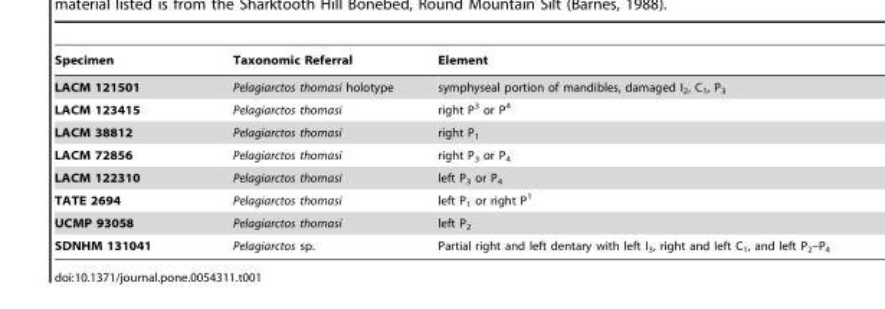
<table><thead><tr><td>Specimen</td><td>Taxonomic Referral</td><td>Element</td></tr></thead><tbody><tr><td>LACM 121501</td><td>Pelagiarctos thomasi holotype</td><td>symphyseal portion of mandibles, damaged I<sub>2</sub>, C<sub>1</sub>, P<sub>3</sub></td></tr><tr><td>LACM 123415</td><td>Pelagiarctos thomasi</td><td>right P<sup>3</sup> or P<sup>4</sup></td></tr><tr><td>LACM 38812</td><td>Pelagiarctos thomasi</td><td>right P<sub>1</sub></td></tr><tr><td>LACM 72856</td><td>Pelagiarctos thomasi</td><td>right P<sub>3</sub> or P<sub>4</sub></td></tr><tr><td>LACM 122310</td><td>Pelagiarctos thomasi</td><td>left P<sub>3</sub> or P<sub>4</sub></td></tr><tr><td>TATE 2694</td><td>Pelagiarctos thomasi</td><td>left P<sub>1</sub> or right P<sup>1</sup></td></tr><tr><td>UCMP 93058</td><td>Pelagiarctos thomasi</td><td>left P<sub>2</sub></td></tr><tr><td>SDNHM 131041</td><td>Pelagiarctos sp.</td><td>Partial right and left dentary with left I<sub>3</sub>, right and left C<sub>1</sub>, and left P<sub>2</sub>–P<sub>4</sub></td></tr></tbody></table>